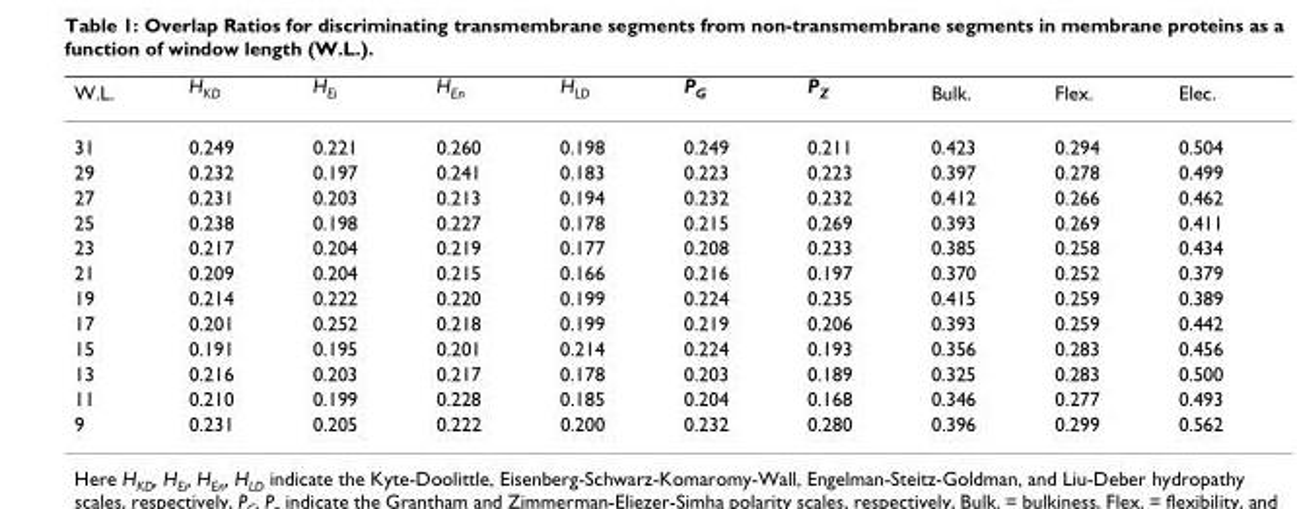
<table><thead><tr><td>W.L.</td><td>H<sub>KD</sub></td><td>H<sub>Ei</sub></td><td>H<sub>En</sub></td><td>H<sub>LD</sub></td><td>P<sub>G</sub></td><td>P<sub>Z</sub></td><td>Bulk.</td><td>Flex.</td><td>Elec.</td></tr></thead><tbody><tr><td>31</td><td>0.249</td><td>0.221</td><td>0.260</td><td>0.198</td><td>0.249</td><td>0.211</td><td>0.423</td><td>0.294</td><td>0.504</td></tr><tr><td>29</td><td>0.232</td><td>0.197</td><td>0.241</td><td>0.183</td><td>0.223</td><td>0.223</td><td>0.397</td><td>0.278</td><td>0.499</td></tr><tr><td>27</td><td>0.231</td><td>0.203</td><td>0.213</td><td>0.194</td><td>0.232</td><td>0.232</td><td>0.412</td><td>0.266</td><td>0.462</td></tr><tr><td>25</td><td>0.238</td><td>0.198</td><td>0.227</td><td>0.178</td><td>0.215</td><td>0.269</td><td>0.393</td><td>0.269</td><td>0.411</td></tr><tr><td>23</td><td>0.217</td><td>0.204</td><td>0.219</td><td>0.177</td><td>0.208</td><td>0.233</td><td>0.385</td><td>0.258</td><td>0.434</td></tr><tr><td>21</td><td>0.209</td><td>0.204</td><td>0.215</td><td>0.166</td><td>0.216</td><td>0.197</td><td>0.370</td><td>0.252</td><td>0.379</td></tr><tr><td>19</td><td>0.214</td><td>0.222</td><td>0.220</td><td>0.199</td><td>0.224</td><td>0.235</td><td>0.415</td><td>0.259</td><td>0.389</td></tr><tr><td>17</td><td>0.201</td><td>0.252</td><td>0.218</td><td>0.199</td><td>0.219</td><td>0.206</td><td>0.393</td><td>0.259</td><td>0.442</td></tr><tr><td>15</td><td>0.191</td><td>0.195</td><td>0.201</td><td>0.214</td><td>0.224</td><td>0.193</td><td>0.356</td><td>0.283</td><td>0.456</td></tr><tr><td>13</td><td>0.216</td><td>0.203</td><td>0.217</td><td>0.178</td><td>0.203</td><td>0.189</td><td>0.325</td><td>0.283</td><td>0.500</td></tr><tr><td>11</td><td>0.210</td><td>0.199</td><td>0.228</td><td>0.185</td><td>0.204</td><td>0.168</td><td>0.346</td><td>0.277</td><td>0.493</td></tr><tr><td>9</td><td>0.231</td><td>0.205</td><td>0.222</td><td>0.200</td><td>0.232</td><td>0.280</td><td>0.396</td><td>0.299</td><td>0.562</td></tr></tbody></table>